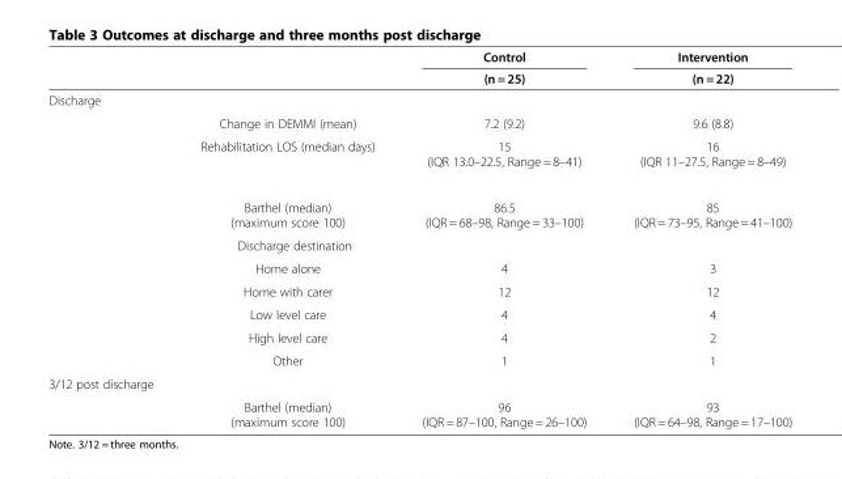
<table><thead><tr><td rowspan="2"></td><td rowspan="2"></td><td rowspan="2">Control (n = 25)</td><td rowspan="2">Intervention (n = 22)</td></tr><tr></tr></thead><tbody><tr><td colspan="4">Discharge</td></tr><tr><td></td><td>Change in DEMMI (mean)</td><td>7.2 (9.2)</td><td>9.6 (8.8)</td></tr><tr><td></td><td>Rehabilitation LOS (median days)</td><td>15 (IQR 13.0–22.5, Range = 8–41)</td><td>16 (IQR 11–27.5, Range = 8–49)</td></tr><tr><td></td><td>Barthel (median) (maximum score 100)</td><td>86.5 (IQR = 68–98, Range = 33–100)</td><td>85 (IQR = 73–95, Range = 41–100)</td></tr><tr><td></td><td>Discharge destination</td><td></td><td></td></tr><tr><td></td><td>Home alone</td><td>4</td><td>3</td></tr><tr><td></td><td>Home with carer</td><td>12</td><td>12</td></tr><tr><td></td><td>Low level care</td><td>4</td><td>4</td></tr><tr><td></td><td>High level care</td><td>4</td><td>2</td></tr><tr><td></td><td>Other</td><td>1</td><td>1</td></tr><tr><td colspan="4">3/12 post discharge</td></tr><tr><td></td><td>Barthel (median) (maximum score 100)</td><td>96 (IQR = 87–100, Range = 26–100)</td><td>93 (IQR = 64–98, Range = 17–100)</td></tr></tbody></table>